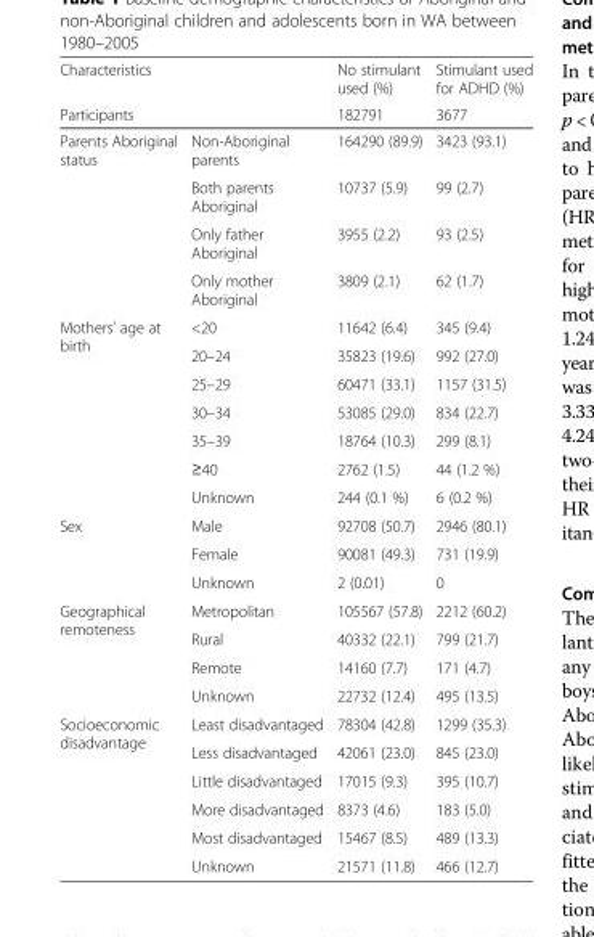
<table><thead><tr><td>Characteristics</td><td></td><td rowspan="2">No stimulant used (%) 182791</td><td rowspan="2">Stimulant used for ADHD (%) 3677</td></tr><tr><td colspan="2">Participants</td></tr></thead><tbody><tr><td rowspan="4">Parents Aboriginal status</td><td>Non-Aboriginal parents</td><td>164290 (89.9)</td><td>3423 (93.1)</td></tr><tr><td>Both parents Aboriginal</td><td>10737 (5.9)</td><td>99 (2.7)</td></tr><tr><td>Only father Aboriginal</td><td>3955 (2.2)</td><td>93 (2.5)</td></tr><tr><td>Only mother Aboriginal</td><td>3809 (2.1)</td><td>62 (1.7)</td></tr><tr><td rowspan="7">Mothers’ age at birth</td><td>&lt;20</td><td>11642 (6.4)</td><td>345 (9.4)</td></tr><tr><td>20–24</td><td>35823 (19.6)</td><td>992 (27.0)</td></tr><tr><td>25–29</td><td>60471 (33.1)</td><td>1157 (31.5)</td></tr><tr><td>30–34</td><td>53085 (29.0)</td><td>834 (22.7)</td></tr><tr><td>35–39</td><td>18764 (10.3)</td><td>299 (8.1)</td></tr><tr><td>≥40</td><td>2762 (1.5)</td><td>44 (1.2 %)</td></tr><tr><td>Unknown</td><td>244 (0.1 %)</td><td>6 (0.2 %)</td></tr><tr><td rowspan="3">Sex</td><td>Male</td><td>92708 (50.7)</td><td>2946 (80.1)</td></tr><tr><td>Female</td><td>90081 (49.3)</td><td>731 (19.9)</td></tr><tr><td>Unknown</td><td>2 (0.01)</td><td>0</td></tr><tr><td rowspan="4">Geographical remoteness</td><td>Metropolitan</td><td>105567 (57.8)</td><td>2212 (60.2)</td></tr><tr><td>Rural</td><td>40332 (22.1)</td><td>799 (21.7)</td></tr><tr><td>Remote</td><td>14160 (7.7)</td><td>171 (4.7)</td></tr><tr><td>Unknown</td><td>22732 (12.4)</td><td>495 (13.5)</td></tr><tr><td rowspan="6">Socioeconomic disadvantage</td><td>Least disadvantaged</td><td>78304 (42.8)</td><td>1299 (35.3)</td></tr><tr><td>Less disadvantaged</td><td>42061 (23.0)</td><td>845 (23.0)</td></tr><tr><td>Little disadvantaged</td><td>17015 (9.3)</td><td>395 (10.7)</td></tr><tr><td>More disadvantaged</td><td>8373 (4.6)</td><td>183 (5.0)</td></tr><tr><td>Most disadvantaged</td><td>15467 (8.5)</td><td>489 (13.3)</td></tr><tr><td>Unknown</td><td>21571 (11.8)</td><td>466 (12.7)</td></tr></tbody></table>